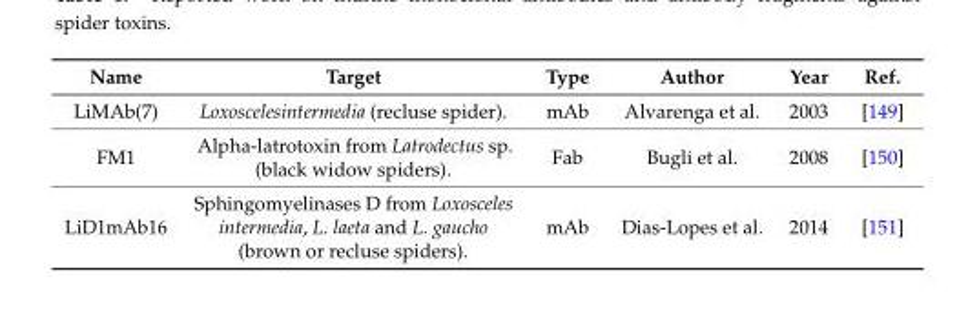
<table><thead><tr><td>Name</td><td>Target</td><td>Type</td><td>Author</td><td>Year</td><td>Ref.</td></tr></thead><tbody><tr><td>LiMAb(7)</td><td>Loxoscelesintermedia (recluse spider).</td><td>mAb</td><td>Alvarenga et al.</td><td>2003</td><td>[149]</td></tr><tr><td>FM1</td><td>Alpha-latrotoxin from Latrodectus sp. (black widow spiders).</td><td>Fab</td><td>Bugli et al.</td><td>2008</td><td>[150]</td></tr><tr><td>LiD1mAb16</td><td>Sphingomyelinases D from Loxosceles intermedia, L. laeta and L. gaucho (brown or recluse spiders).</td><td>mAb</td><td>Dias-Lopes et al.</td><td>2014</td><td>[151]</td></tr></tbody></table>